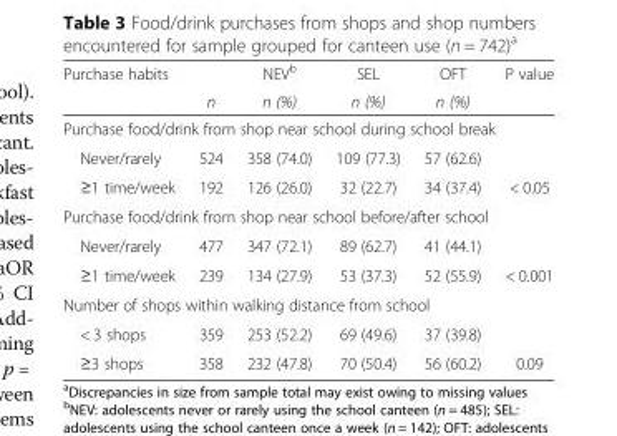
<table><thead><tr><td rowspan="2">Purchase habits</td><td rowspan="2">n</td><td rowspan="2">NEV<sup>b</sup> n (%)</td><td rowspan="2">SEL n (%)</td><td rowspan="2">OFT n (%)</td><td rowspan="2">P value</td></tr><tr></tr></thead><tbody><tr><td colspan="6">Purchase food/drink from shop near school during school break</td></tr><tr><td>Never/rarely</td><td>524</td><td>358 (74.0)</td><td>109 (77.3)</td><td>57 (62.6)</td><td></td></tr><tr><td>≥1 time/week</td><td>192</td><td>126 (26.0)</td><td>32 (22.7)</td><td>34 (37.4)</td><td>&lt; 0.05</td></tr><tr><td colspan="6">Purchase food/drink from shop near school before/after school</td></tr><tr><td>Never/rarely</td><td>477</td><td>347 (72.1)</td><td>89 (62.7)</td><td>41 (44.1)</td><td></td></tr><tr><td>≥1 time/week</td><td>239</td><td>134 (27.9)</td><td>53 (37.3)</td><td>52 (55.9)</td><td>&lt; 0.001</td></tr><tr><td colspan="6">Number of shops within walking distance from school</td></tr><tr><td>&lt; 3 shops</td><td>359</td><td>253 (52.2)</td><td>69 (49.6)</td><td>37 (39.8)</td><td></td></tr><tr><td>≥3 shops</td><td>358</td><td>232 (47.8)</td><td>70 (50.4)</td><td>56 (60.2)</td><td>0.09</td></tr></tbody></table>